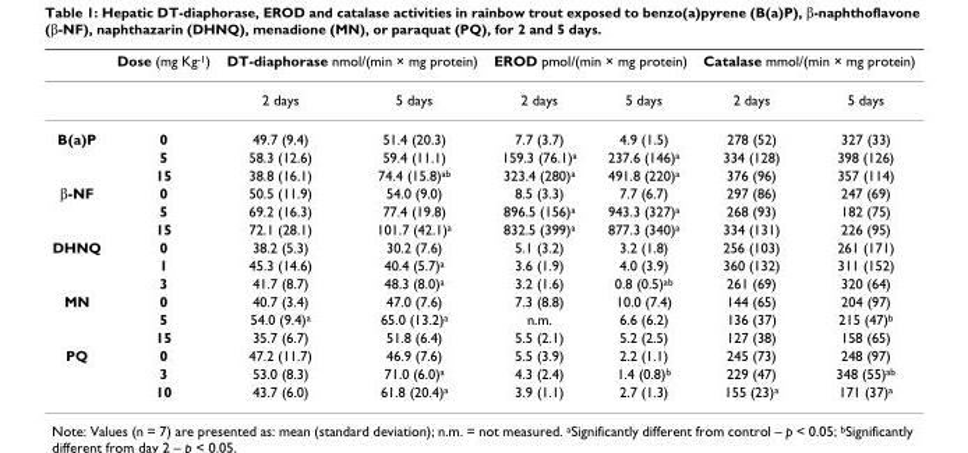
<table><thead><tr><td rowspan="2"></td><td rowspan="2">Dose (mg Kg<sup>-1</sup>)</td><td colspan="2">DT-diaphorase nmol/(min × mg protein)</td><td colspan="2">EROD pmol/(min × mg protein)</td><td colspan="2">Catalase mmol/(min × mg protein)</td></tr><tr><td>2 days</td><td>5 days</td><td>2 days</td><td>5 days</td><td>2 days</td><td>5 days</td></tr></thead><tbody><tr><td rowspan="3">B(a)P</td><td>0</td><td>49.7 (9.4)</td><td>51.4 (20.3)</td><td>7.7 (3.7)</td><td>4.9 (1.5)</td><td>278 (52)</td><td>327 (33)</td></tr><tr><td>5</td><td>58.3 (12.6)</td><td>59.4 (11.1)</td><td>159.3 (76.1)<sup>a</sup></td><td>237.6 (146)<sup>a</sup></td><td>334 (128)</td><td>398 (126)</td></tr><tr><td>15</td><td>38.8 (16.1)</td><td>74.4 (15.8)<sup>ab</sup></td><td>323.4 (280)<sup>a</sup></td><td>491.8 (220)<sup>a</sup></td><td>376 (96)</td><td>357 (114)</td></tr><tr><td rowspan="3">β-NF</td><td>0</td><td>50.5 (11.9)</td><td>54.0 (9.0)</td><td>8.5 (3.3)</td><td>7.7 (6.7)</td><td>297 (86)</td><td>247 (69)</td></tr><tr><td>5</td><td>69.2 (16.3)</td><td>77.4 (19.8)</td><td>896.5 (156)<sup>a</sup></td><td>943.3 (327)<sup>a</sup></td><td>268 (93)</td><td>182 (75)</td></tr><tr><td>15</td><td>72.1 (28.1)</td><td>101.7 (42.1)<sup>a</sup></td><td>832.5 (399)<sup>a</sup></td><td>877.3 (340)<sup>a</sup></td><td>334 (131)</td><td>226 (95)</td></tr><tr><td rowspan="3">DHNQ</td><td>0</td><td>38.2 (5.3)</td><td>30.2 (7.6)</td><td>5.1 (3.2)</td><td>3.2 (1.8)</td><td>256 (103)</td><td>261 (171)</td></tr><tr><td>1</td><td>45.3 (14.6)</td><td>40.4 (5.7)<sup>a</sup></td><td>3.6 (1.9)</td><td>4.0 (3.9)</td><td>360 (132)</td><td>311 (152)</td></tr><tr><td>3</td><td>41.7 (8.7)</td><td>48.3 (8.0)<sup>a</sup></td><td>3.2 (1.6)</td><td>0.8 (0.5)<sup>ab</sup></td><td>261 (69)</td><td>320 (64)</td></tr><tr><td rowspan="3">MN</td><td>0</td><td>40.7 (3.4)</td><td>47.0 (7.6)</td><td>7.3 (8.8)</td><td>10.0 (7.4)</td><td>144 (65)</td><td>204 (97)</td></tr><tr><td>5</td><td>54.0 (9.4)<sup>a</sup></td><td>65.0 (13.2)<sup>a</sup></td><td>n.m.</td><td>6.6 (6.2)</td><td>136 (37)</td><td>215 (47)<sup>b</sup></td></tr><tr><td>15</td><td>35.7 (6.7)</td><td>51.8 (6.4)</td><td>5.5 (2.1)</td><td>5.2 (2.5)</td><td>127 (38)</td><td>158 (65)</td></tr><tr><td rowspan="3">PQ</td><td>0</td><td>47.2 (11.7)</td><td>46.9 (7.6)</td><td>5.5 (3.9)</td><td>2.2 (1.1)</td><td>245 (73)</td><td>248 (97)</td></tr><tr><td>3</td><td>53.0 (8.3)</td><td>71.0 (6.0)<sup>a</sup></td><td>4.3 (2.4)</td><td>1.4 (0.8)<sup>b</sup></td><td>229 (47)</td><td>348 (55)<sup>ab</sup></td></tr><tr><td>10</td><td>43.7 (6.0)</td><td>61.8 (20.4)<sup>a</sup></td><td>3.9 (1.1)</td><td>2.7 (1.3)</td><td>155 (23)<sup>a</sup></td><td>171 (37)<sup>a</sup></td></tr></tbody></table>